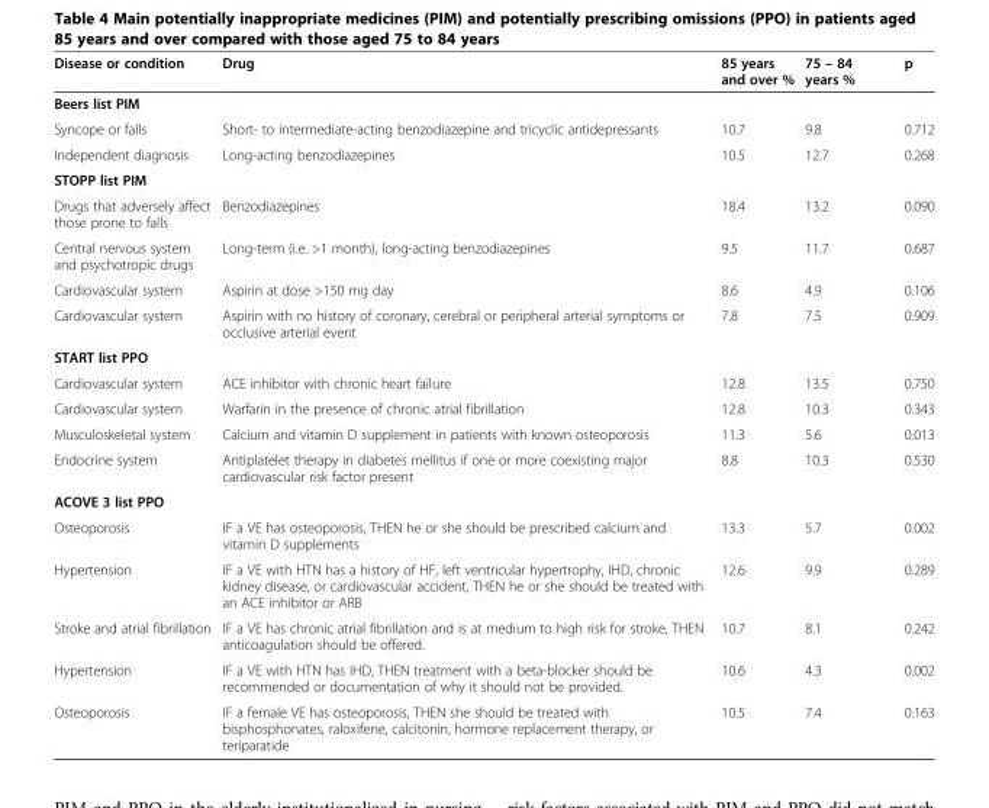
<table><thead><tr><td>Disease or condition</td><td>Drug</td><td>85 years and over %</td><td>75 – 84 years %</td><td>p</td></tr></thead><tbody><tr><td colspan="5">Beers list PIM</td></tr><tr><td>Syncope or falls</td><td>Short- to intermediate-acting benzodiazepine and tricyclic antidepressants</td><td>10.7</td><td>9.8</td><td>0.712</td></tr><tr><td>Independent diagnosis</td><td>Long-acting benzodiazepines</td><td>10.5</td><td>12.7</td><td>0.268</td></tr><tr><td colspan="5">STOPP list PIM</td></tr><tr><td>Drugs that adversely affect those prone to falls</td><td>Benzodiazepines</td><td>18.4</td><td>13.2</td><td>0.090</td></tr><tr><td>Central nervous system and psychotropic drugs</td><td>Long-term (i.e. &gt;1 month), long-acting benzodiazepines</td><td>9.5</td><td>11.7</td><td>0.687</td></tr><tr><td>Cardiovascular system</td><td>Aspirin at dose &gt;150 mg day</td><td>8.6</td><td>4.9</td><td>0.106</td></tr><tr><td>Cardiovascular system</td><td>Aspirin with no history of coronary, cerebral or peripheral arterial symptoms or occlusive arterial event</td><td>7.8</td><td>7.5</td><td>0.909</td></tr><tr><td colspan="5">START list PPO</td></tr><tr><td>Cardiovascular system</td><td>ACE inhibitor with chronic heart failure</td><td>12.8</td><td>13.5</td><td>0.750</td></tr><tr><td>Cardiovascular system</td><td>Warfarin in the presence of chronic atrial fibrillation</td><td>12.8</td><td>10.3</td><td>0.343</td></tr><tr><td>Musculoskeletal system</td><td>Calcium and vitamin D supplement in patients with known osteoporosis</td><td>11.3</td><td>5.6</td><td>0.013</td></tr><tr><td>Endocrine system</td><td>Antiplatelet therapy in diabetes mellitus if one or more coexisting major cardiovascular risk factor present</td><td>8.8</td><td>10.3</td><td>0.530</td></tr><tr><td colspan="5">ACOVE 3 list PPO</td></tr><tr><td>Osteoporosis</td><td>IF a VE has osteoporosis, THEN he or she should be prescribed calcium and vitamin D supplements</td><td>13.3</td><td>5.7</td><td>0.002</td></tr><tr><td>Hypertension</td><td>IF a VE with HTN has a history of HF, left ventricular hypertrophy, IHD, chronic kidney disease, or cardiovascular accident, THEN he or she should be treated with an ACE inhibitor or ARB</td><td>12.6</td><td>9.9</td><td>0.289</td></tr><tr><td>Stroke and atrial fibrillation</td><td>IF a VE has chronic atrial fibrillation and is at medium to high risk for stroke, THEN anticoagulation should be offered.</td><td>10.7</td><td>8.1</td><td>0.242</td></tr><tr><td>Hypertension</td><td>IF a VE with HTN has IHD, THEN treatment with a beta-blocker should be recommended or documentation of why it should not be provided.</td><td>10.6</td><td>4.3</td><td>0.002</td></tr><tr><td>Osteoporosis</td><td>IF a female VE has osteoporosis, THEN she should be treated with bisphosphonates, raloxifene, calcitonin, hormone replacement therapy, or teriparatide</td><td>10.5</td><td>7.4</td><td>0.163</td></tr></tbody></table>